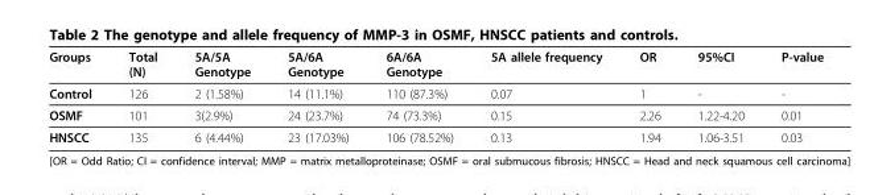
<table><thead><tr><td>Groups</td><td>Total (N)</td><td>5A/5A Genotype</td><td>5A/6A Genotype</td><td>6A/6A Genotype</td><td>5A allele frequency</td><td>OR</td><td>95%CI</td><td>P-value</td></tr></thead><tbody><tr><td>Control</td><td>126</td><td>2 (1.58%)</td><td>14 (11.1%)</td><td>110 (87.3%)</td><td>0.07</td><td>1</td><td>-</td><td>-</td></tr><tr><td>OSMF</td><td>101</td><td>3(2.9%)</td><td>24 (23.7%)</td><td>74 (73.3%)</td><td>0.15</td><td>2.26</td><td>1.22-4.20</td><td>0.01</td></tr><tr><td>HNSCC</td><td>135</td><td>6 (4.44%)</td><td>23 (17.03%)</td><td>106 (78.52%)</td><td>0.13</td><td>1.94</td><td>1.06-3.51</td><td>0.03</td></tr></tbody></table>